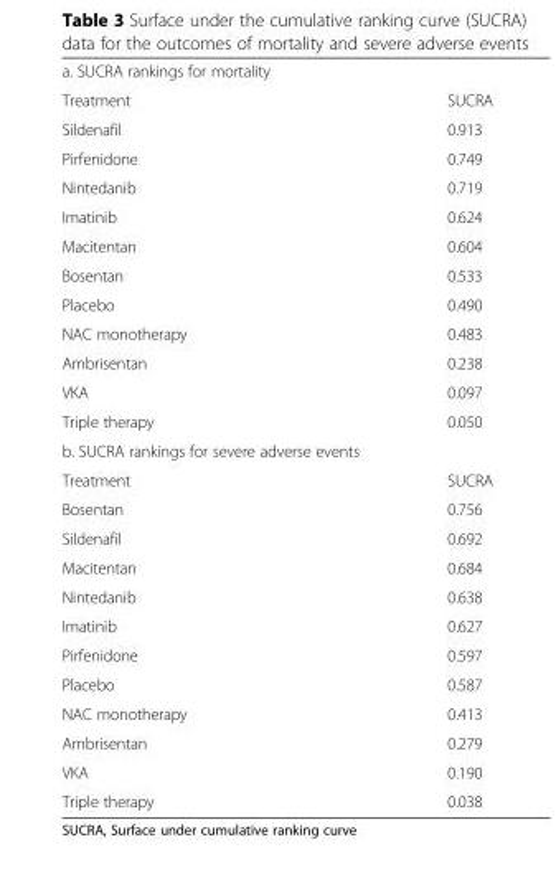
<table><tbody><tr><td colspan="2">a. SUCRA rankings for mortality</td></tr><tr><td>Treatment</td><td>SUCRA</td></tr><tr><td>Sildenafil</td><td>0.913</td></tr><tr><td>Pirfenidone</td><td>0.749</td></tr><tr><td>Nintedanib</td><td>0.719</td></tr><tr><td>Imatinib</td><td>0.624</td></tr><tr><td>Macitentan</td><td>0.604</td></tr><tr><td>Bosentan</td><td>0.533</td></tr><tr><td>Placebo</td><td>0.490</td></tr><tr><td>NAC monotherapy</td><td>0.483</td></tr><tr><td>Ambrisentan</td><td>0.238</td></tr><tr><td>VKA</td><td>0.097</td></tr><tr><td>Triple therapy</td><td>0.050</td></tr><tr><td colspan="2">b. SUCRA rankings for severe adverse events</td></tr><tr><td>Treatment</td><td>SUCRA</td></tr><tr><td>Bosentan</td><td>0.756</td></tr><tr><td>Sildenafil</td><td>0.692</td></tr><tr><td>Macitentan</td><td>0.684</td></tr><tr><td>Nintedanib</td><td>0.638</td></tr><tr><td>Imatinib</td><td>0.627</td></tr><tr><td>Pirfenidone</td><td>0.597</td></tr><tr><td>Placebo</td><td>0.587</td></tr><tr><td>NAC monotherapy</td><td>0.413</td></tr><tr><td>Ambrisentan</td><td>0.279</td></tr><tr><td>VKA</td><td>0.190</td></tr><tr><td>Triple therapy</td><td>0.038</td></tr></tbody></table>